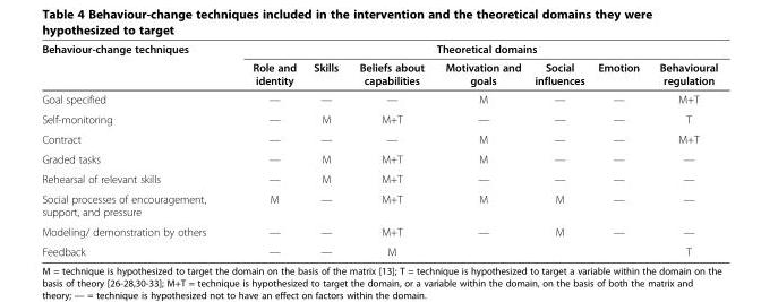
<table><thead><tr><td rowspan="2">Behaviour-change techniques</td><td colspan="7">Theoretical domains</td></tr><tr><td>Role and identity</td><td>Skills</td><td>Beliefs about capabilities</td><td>Motivation and goals</td><td>Social influences</td><td>Emotion</td><td>Behavioural regulation</td></tr></thead><tbody><tr><td>Goal specified</td><td>—</td><td>—</td><td>—</td><td>M</td><td>—</td><td>—</td><td>M+T</td></tr><tr><td>Self-monitoring</td><td>—</td><td>M</td><td>M+T</td><td>—</td><td>—</td><td>—</td><td>T</td></tr><tr><td>Contract</td><td>—</td><td>—</td><td>—</td><td>M</td><td>—</td><td>—</td><td>M+T</td></tr><tr><td>Graded tasks</td><td>—</td><td>M</td><td>M+T</td><td>M</td><td>—</td><td>—</td><td>—</td></tr><tr><td>Rehearsal of relevant skills</td><td>—</td><td>M</td><td>M+T</td><td>—</td><td>—</td><td>—</td><td>—</td></tr><tr><td>Social processes of encouragement, support, and pressure</td><td>M</td><td>—</td><td>M+T</td><td>M</td><td>M</td><td>—</td><td>—</td></tr><tr><td>Modeling/ demonstration by others</td><td>—</td><td>—</td><td>M+T</td><td>—</td><td>M</td><td>—</td><td>—</td></tr><tr><td>Feedback</td><td>—</td><td>—</td><td>M</td><td></td><td></td><td></td><td>T</td></tr></tbody></table>